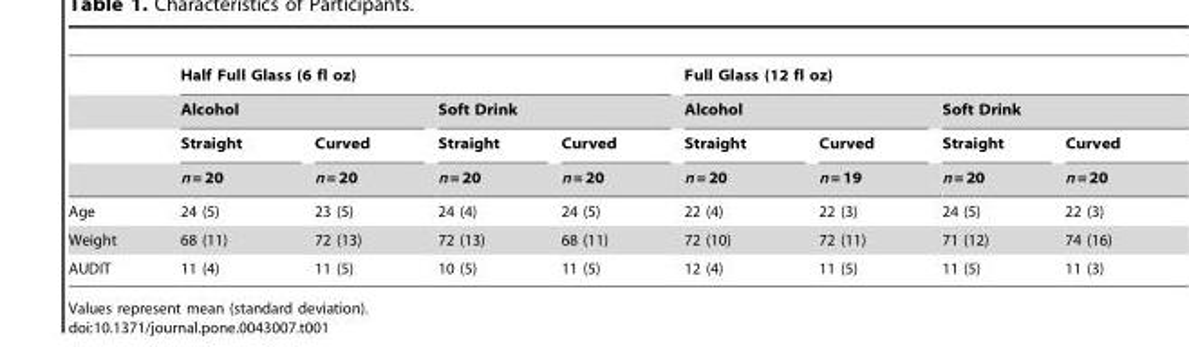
<table><thead><tr><td rowspan="4"></td><td colspan="4">Half Full Glass (6 fl oz)</td><td colspan="4">Full Glass (12 fl oz)</td></tr><tr><td colspan="2">Alcohol</td><td colspan="2">Soft Drink</td><td colspan="2">Alcohol</td><td colspan="2">Soft Drink</td></tr><tr><td rowspan="2">Straight n = 20</td><td rowspan="2">Curved n = 20</td><td rowspan="2">Straight n = 20</td><td rowspan="2">Curved n = 20</td><td rowspan="2">Straight n = 20</td><td rowspan="2">Curved n = 19</td><td rowspan="2">Straight n = 20</td><td rowspan="2">Curved n = 20</td></tr><tr></tr></thead><tbody><tr><td>Age</td><td>24 (5)</td><td>23 (5)</td><td>24 (4)</td><td>24 (5)</td><td>22 (4)</td><td>22 (3)</td><td>24 (5)</td><td>22 (3)</td></tr><tr><td>Weight</td><td>68 (11)</td><td>72 (13)</td><td>72 (13)</td><td>68 (11)</td><td>72 (10)</td><td>72 (11)</td><td>71 (12)</td><td>74 (16)</td></tr><tr><td>AUDIT</td><td>11 (4)</td><td>11 (5)</td><td>10 (5)</td><td>11 (5)</td><td>12 (4)</td><td>11 (5)</td><td>11 (5)</td><td>11 (3)</td></tr></tbody></table>